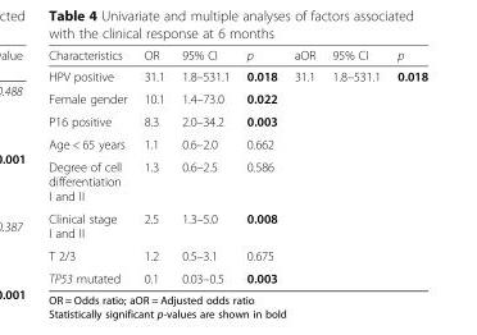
<table><thead><tr><td>Characteristics</td><td>OR</td><td>95% CI</td><td>p</td><td>aOR</td><td>95% CI</td><td>p</td></tr></thead><tbody><tr><td>HPV positive</td><td>31.1</td><td>1.8–531.1</td><td>0.018</td><td>31.1</td><td>1.8–531.1</td><td>0.018</td></tr><tr><td>Female gender</td><td>10.1</td><td>1.4–73.0</td><td>0.022</td><td></td><td></td><td></td></tr><tr><td>P16 positive</td><td>8.3</td><td>2.0–34.2</td><td>0.003</td><td></td><td></td><td></td></tr><tr><td>Age &lt; 65 years</td><td>1.1</td><td>0.6–2.0</td><td>0.662</td><td></td><td></td><td></td></tr><tr><td>Degree of cell differentiation I and II</td><td>1.3</td><td>0.6–2.5</td><td>0.586</td><td></td><td></td><td></td></tr><tr><td>Clinical stage I and II</td><td>2.5</td><td>1.3–5.0</td><td>0.008</td><td></td><td></td><td></td></tr><tr><td>T 2/3</td><td>1.2</td><td>0.5–3.1</td><td>0.675</td><td></td><td></td><td></td></tr><tr><td>TP53 mutated</td><td>0.1</td><td>0.03–0.5</td><td>0.003</td><td></td><td></td><td></td></tr></tbody></table>